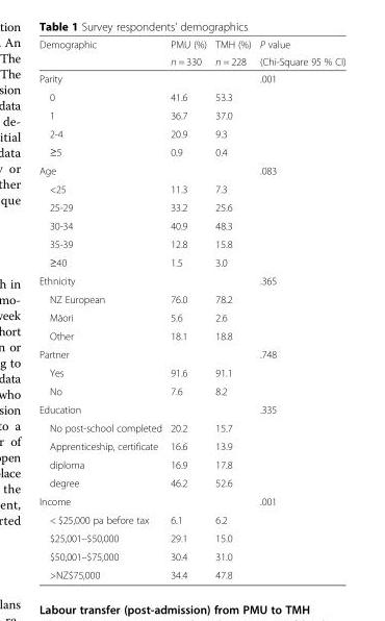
<table><thead><tr><td rowspan="2">Demographic</td><td rowspan="2">PMU (%) n = 330</td><td rowspan="2">TMH (%) n = 228</td><td rowspan="2">P value (Chi-Square 95 % CI)</td></tr><tr></tr></thead><tbody><tr><td>Parity</td><td></td><td></td><td>.001</td></tr><tr><td>0</td><td>41.6</td><td>53.3</td><td></td></tr><tr><td>1</td><td>36.7</td><td>37.0</td><td></td></tr><tr><td>2-4</td><td>20.9</td><td>9.3</td><td></td></tr><tr><td>≥5</td><td>0.9</td><td>0.4</td><td></td></tr><tr><td>Age</td><td></td><td></td><td>.083</td></tr><tr><td>&lt;25</td><td>11.3</td><td>7.3</td><td></td></tr><tr><td>25-29</td><td>33.2</td><td>25.6</td><td></td></tr><tr><td>30-34</td><td>40.9</td><td>48.3</td><td></td></tr><tr><td>35-39</td><td>12.8</td><td>15.8</td><td></td></tr><tr><td>≥40</td><td>1.5</td><td>3.0</td><td></td></tr><tr><td>Ethnicity</td><td></td><td></td><td>.365</td></tr><tr><td>NZ European</td><td>76.0</td><td>78.2</td><td></td></tr><tr><td>Māori</td><td>5.6</td><td>2.6</td><td></td></tr><tr><td>Other</td><td>18.1</td><td>18.8</td><td></td></tr><tr><td>Partner</td><td></td><td></td><td>.748</td></tr><tr><td>Yes</td><td>91.6</td><td>91.1</td><td></td></tr><tr><td>No</td><td>7.6</td><td>8.2</td><td></td></tr><tr><td>Education</td><td></td><td></td><td>.335</td></tr><tr><td>No post-school completed</td><td>20.2</td><td>15.7</td><td></td></tr><tr><td>Apprenticeship, certificate</td><td>16.6</td><td>13.9</td><td></td></tr><tr><td>diploma</td><td>16.9</td><td>17.8</td><td></td></tr><tr><td>degree</td><td>46.2</td><td>52.6</td><td></td></tr><tr><td>Income</td><td></td><td></td><td>.001</td></tr><tr><td>&lt; $25,000 pa before tax</td><td>6.1</td><td>6.2</td><td></td></tr><tr><td>$25,001–$50,000</td><td>29.1</td><td>15.0</td><td></td></tr><tr><td>$50,001–$75,000</td><td>30.4</td><td>31.0</td><td></td></tr><tr><td>&gt;NZ$75,000</td><td>34.4</td><td>47.8</td><td></td></tr></tbody></table>